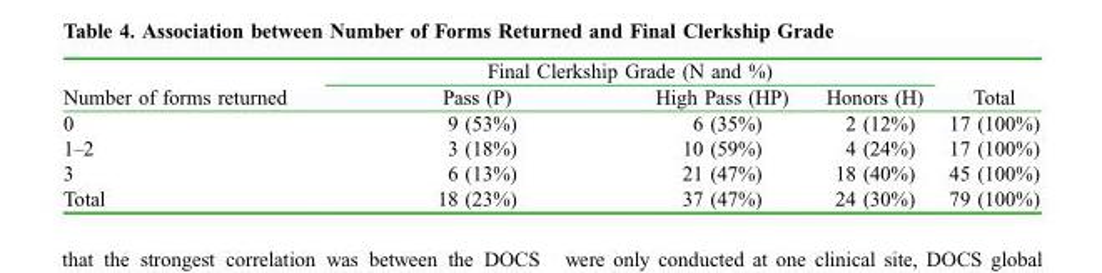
<table><thead><tr><td rowspan="2">Number of forms returned</td><td colspan="3">Final Clerkship Grade (N and %)</td><td rowspan="2">Total</td></tr><tr><td>Pass (P)</td><td>High Pass (HP)</td><td>Honors (H)</td></tr></thead><tbody><tr><td>0</td><td>9 (53%)</td><td>6 (35%)</td><td>2 (12%)</td><td>17 (100%)</td></tr><tr><td>1–2</td><td>3 (18%)</td><td>10 (59%)</td><td>4 (24%)</td><td>17 (100%)</td></tr><tr><td>3</td><td>6 (13%)</td><td>21 (47%)</td><td>18 (40%)</td><td>45 (100%)</td></tr><tr><td>Total</td><td>18 (23%)</td><td>37 (47%)</td><td>24 (30%)</td><td>79 (100%)</td></tr></tbody></table>